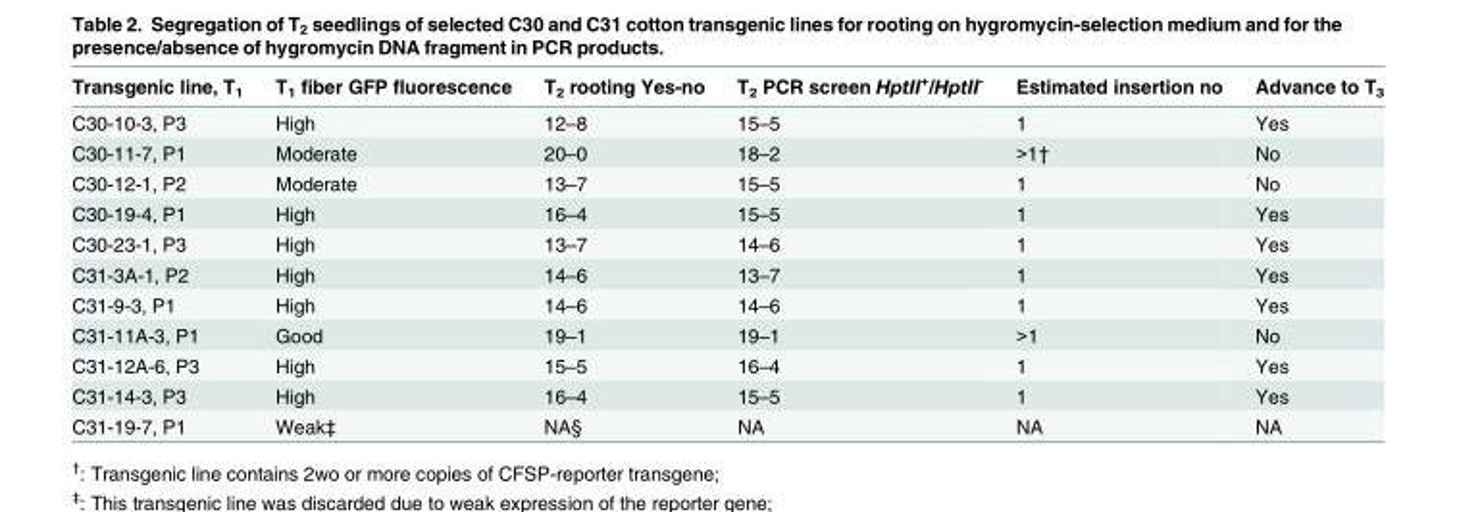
<table><thead><tr><td>Transgenic line, T<sub>1</sub></td><td>T<sub>1</sub> fiber GFP fluorescence</td><td>T<sub>2</sub> rooting Yes-no</td><td>T<sub>2</sub> PCR screen HptII<sup>+</sup>/HptII<sup>-</sup></td><td>Estimated insertion no</td><td>Advance to T<sub>3</sub></td></tr></thead><tbody><tr><td>C30-10-3, P3</td><td>High</td><td>12–8</td><td>15–5</td><td>1</td><td>Yes</td></tr><tr><td>C30-11-7, P1</td><td>Moderate</td><td>20–0</td><td>18–2</td><td>&gt;1†</td><td>No</td></tr><tr><td>C30-12-1, P2</td><td>Moderate</td><td>13–7</td><td>15–5</td><td>1</td><td>No</td></tr><tr><td>C30-19-4, P1</td><td>High</td><td>16–4</td><td>15–5</td><td>1</td><td>Yes</td></tr><tr><td>C30-23-1, P3</td><td>High</td><td>13–7</td><td>14–6</td><td>1</td><td>Yes</td></tr><tr><td>C31-3A-1, P2</td><td>High</td><td>14–6</td><td>13–7</td><td>1</td><td>Yes</td></tr><tr><td>C31-9-3, P1</td><td>High</td><td>14–6</td><td>14–6</td><td>1</td><td>Yes</td></tr><tr><td>C31-11A-3, P1</td><td>Good</td><td>19–1</td><td>19–1</td><td>&gt;1</td><td>No</td></tr><tr><td>C31-12A-6, P3</td><td>High</td><td>15–5</td><td>16–4</td><td>1</td><td>Yes</td></tr><tr><td>C31-14-3, P3</td><td>High</td><td>16–4</td><td>15–5</td><td>1</td><td>Yes</td></tr><tr><td>C31-19-7, P1</td><td>Weak‡</td><td>NA§</td><td>NA</td><td>NA</td><td>NA</td></tr></tbody></table>